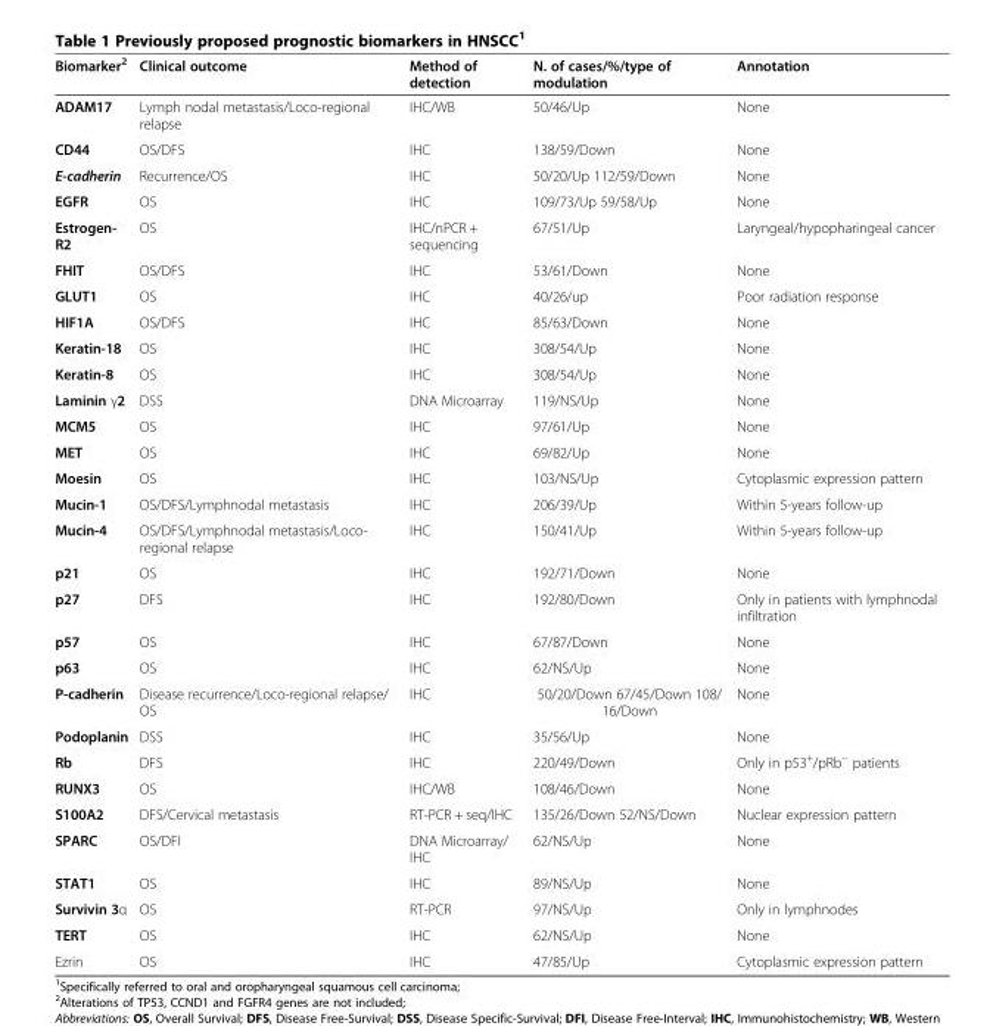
<table><thead><tr><td>Biomarker<sup>2</sup></td><td>Clinical outcome</td><td>Method of detection</td><td>N. of cases/%/type of modulation</td><td>Annotation</td></tr></thead><tbody><tr><td>ADAM17</td><td>Lymph nodal metastasis/Loco-regional relapse</td><td>IHC/WB</td><td>50/46/Up</td><td>None</td></tr><tr><td>CD44</td><td>OS/DFS</td><td>IHC</td><td>138/59/Down</td><td>None</td></tr><tr><td>E-cadherin</td><td>Recurrence/OS</td><td>IHC</td><td>50/20/Up 112/59/Down</td><td>None</td></tr><tr><td>EGFR</td><td>OS</td><td>IHC</td><td>109/73/Up 59/58/Up</td><td>None</td></tr><tr><td>Estrogen- R2</td><td>OS</td><td>IHC/nPCR + sequencing</td><td>67/51/Up</td><td>Laryngeal/hypopharingeal cancer</td></tr><tr><td>FHIT</td><td>OS/DFS</td><td>IHC</td><td>53/61/Down</td><td>None</td></tr><tr><td>GLUT1</td><td>OS</td><td>IHC</td><td>40/26/up</td><td>Poor radiation response</td></tr><tr><td>HIF1A</td><td>OS/DFS</td><td>IHC</td><td>85/63/Down</td><td>None</td></tr><tr><td>Keratin-18</td><td>OS</td><td>IHC</td><td>308/54/Up</td><td>None</td></tr><tr><td>Keratin-8</td><td>OS</td><td>IHC</td><td>308/54/Up</td><td>None</td></tr><tr><td>Laminin γ2</td><td>DSS</td><td>DNA Microarray</td><td>119/NS/Up</td><td>None</td></tr><tr><td>MCM5</td><td>OS</td><td>IHC</td><td>97/61/Up</td><td>None</td></tr><tr><td>MET</td><td>OS</td><td>IHC</td><td>69/82/Up</td><td>None</td></tr><tr><td>Moesin</td><td>OS</td><td>IHC</td><td>103/NS/Up</td><td>Cytoplasmic expression pattern</td></tr><tr><td>Mucin-1</td><td>OS/DFS/Lymphnodal metastasis</td><td>IHC</td><td>206/39/Up</td><td>Within 5-years follow-up</td></tr><tr><td>Mucin-4</td><td>OS/DFS/Lymphnodal metastasis/Loco- regional relapse</td><td>IHC</td><td>150/41/Up</td><td>Within 5-years follow-up</td></tr><tr><td>p21</td><td>OS</td><td>IHC</td><td>192/71/Down</td><td>None</td></tr><tr><td>p27</td><td>DFS</td><td>IHC</td><td>192/80/Down</td><td>Only in patients with lymphnodal infiltration</td></tr><tr><td>p57</td><td>OS</td><td>IHC</td><td>67/87/Down</td><td>None</td></tr><tr><td>p63</td><td>OS</td><td>IHC</td><td>62/NS/Up</td><td>None</td></tr><tr><td>P-cadherin</td><td>Disease recurrence/Loco-regional relapse/ OS</td><td>IHC</td><td>50/20/Down 67/45/Down 108/ 16/Down</td><td>None</td></tr><tr><td>Podoplanin</td><td>DSS</td><td>IHC</td><td>35/56/Up</td><td>None</td></tr><tr><td>Rb</td><td>DFS</td><td>IHC</td><td>220/49/Down</td><td>Only in p53<sup>+</sup>/pRb<sup>−</sup> patients</td></tr><tr><td>RUNX3</td><td>OS</td><td>IHC/WB</td><td>108/46/Down</td><td>None</td></tr><tr><td>S100A2</td><td>DFS/Cervical metastasis</td><td>RT-PCR + seq/IHC</td><td>135/26/Down 52/NS/Down</td><td>Nuclear expression pattern</td></tr><tr><td>SPARC</td><td>OS/DFI</td><td>DNA Microarray/ IHC</td><td>62/NS/Up</td><td>None</td></tr><tr><td>STAT1</td><td>OS</td><td>IHC</td><td>89/NS/Up</td><td>None</td></tr><tr><td>Survivin 3α</td><td>OS</td><td>RT-PCR</td><td>97/NS/Up</td><td>Only in lymphnodes</td></tr><tr><td>TERT</td><td>OS</td><td>IHC</td><td>62/NS/Up</td><td>None</td></tr><tr><td>Ezrin</td><td>OS</td><td>IHC</td><td>47/85/Up</td><td>Cytoplasmic expression pattern</td></tr></tbody></table>